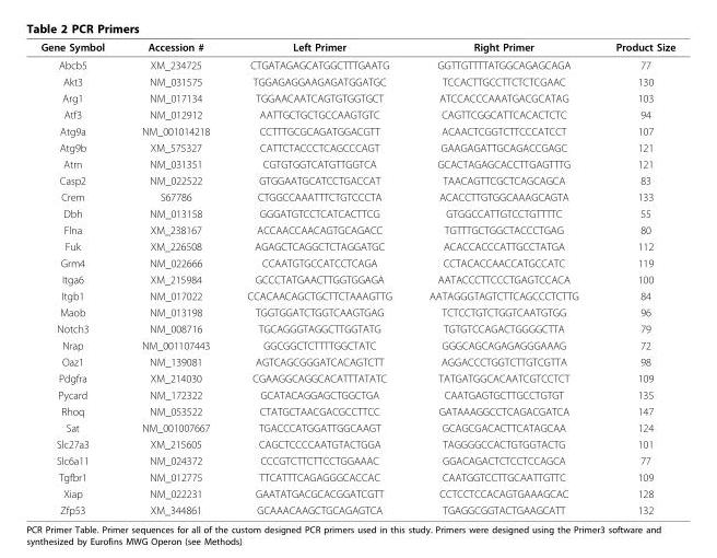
<table><thead><tr><td>Gene Symbol</td><td>Accession #</td><td>Left Primer</td><td>Right Primer</td><td>Product Size</td></tr></thead><tbody><tr><td>Abcb5</td><td>XM_234725</td><td>CTGATAGAGCATGGCTTTGAATG</td><td>GGTTGTTTTATGGCAGAGCAGA</td><td>77</td></tr><tr><td>Akt3</td><td>NM_031575</td><td>TGGAGAGGAAGAGATGGATGC</td><td>TCCACTTGCCTTCTCTCGAAC</td><td>130</td></tr><tr><td>Arg1</td><td>NM_017134</td><td>TGGAACAATCAGTGTGGTGCT</td><td>ATCCACCCAAATGACGCATAG</td><td>103</td></tr><tr><td>Atf3</td><td>NM_012912</td><td>AATTGCTGCTGCCAAGTGTC</td><td>CAGTTCGGCATTCACACTCTC</td><td>94</td></tr><tr><td>Atg9a</td><td>NM_001014218</td><td>CCTTTGCGCAGATGGACGTT</td><td>ACAACTCGGTCTTCCCATCCT</td><td>107</td></tr><tr><td>Atg9b</td><td>XM_575327</td><td>CATTCTACCCTCAGCCCAGT</td><td>GAAGAGATTGCAGACCGAGC</td><td>121</td></tr><tr><td>Atrn</td><td>NM_031351</td><td>CGTGTGGTCATGTTGGTCA</td><td>GCACTAGAGCACCTTGAGTTTG</td><td>121</td></tr><tr><td>Casp2</td><td>NM_022522</td><td>GTGGAATGCATCCTGACCAT</td><td>TAACAGTTCGCTCAGCAGCA</td><td>83</td></tr><tr><td>Crem</td><td>S67786</td><td>CTGGCCAAATTTCTGTCCCTA</td><td>ACACCTTGTGGCAAAGCAGTA</td><td>133</td></tr><tr><td>Dbh</td><td>NM_013158</td><td>GGGATGTCCTCATCACTTCG</td><td>GTGGCCATTGTCCTGTTTTC</td><td>55</td></tr><tr><td>Flna</td><td>XM_238167</td><td>ACCAACCAACAGTGCAGACC</td><td>TGTTTGCTGGCTACCCTGAG</td><td>80</td></tr><tr><td>Fuk</td><td>XM_226508</td><td>AGAGCTCAGGCTCTAGGATGC</td><td>ACACCACCCATTGCCTATGA</td><td>112</td></tr><tr><td>Grm4</td><td>NM_022666</td><td>CCAATGTGCCATCCTCAGA</td><td>CCTACACCAACCATGCCATC</td><td>119</td></tr><tr><td>Itga6</td><td>XM_215984</td><td>GCCCTATGAACTTGGTGGAGA</td><td>AATACCCTTCCCTGAGTCCACA</td><td>100</td></tr><tr><td>Itgb1</td><td>NM_017022</td><td>CCACAACAGCTGCTTCTAAAGTTG</td><td>AATAGGGTAGTCTTCAGCCCTCTTG</td><td>84</td></tr><tr><td>Maob</td><td>NM_013198</td><td>TGGTGGATCTGGTCAAGTGAG</td><td>TCTCCTGTCTGGTCAATGTGG</td><td>96</td></tr><tr><td>Notch3</td><td>NM_008716</td><td>TGCAGGGTAGGCTTGGTATG</td><td>TGTGTCCAGACTGGGGCTTA</td><td>79</td></tr><tr><td>Nrap</td><td>NM_001107443</td><td>GGCGGCTCTTTTGGCTATC</td><td>GGGCAGCAGAGAGGGAAAG</td><td>72</td></tr><tr><td>Oaz1</td><td>NM_139081</td><td>AGTCAGCGGGATCACAGTCTT</td><td>AGGACCCTGGTCTTGTCGTTA</td><td>98</td></tr><tr><td>Pdgfra</td><td>XM_214030</td><td>CGAAGGCAGGCACATTTATATC</td><td>TATGATGGCACAATCGTCCTCT</td><td>109</td></tr><tr><td>Pycard</td><td>NM_172322</td><td>GCATACAGGAGCTGGCTGA</td><td>CAATGAGTGCTTGCCTGTGT</td><td>135</td></tr><tr><td>Rhoq</td><td>NM_053522</td><td>CTATGCTAACGACGCCTTCC</td><td>GATAAAGGCCTCAGACGATCA</td><td>147</td></tr><tr><td>Sat</td><td>NM_001007667</td><td>TGACCCATGGATTGGCAAGT</td><td>GCAGCGACACTTCATAGCAA</td><td>124</td></tr><tr><td>Slc27a3</td><td>XM_215605</td><td>CAGCTCCCCAATGTACTGGA</td><td>TAGGGGCCACTGTGGTACTG</td><td>101</td></tr><tr><td>Slc6a11</td><td>NM_024372</td><td>CCCGTCTTCTTCCTGGAAAC</td><td>GGACAGACTCTCCTCCAGCA</td><td>77</td></tr><tr><td>Tgfbr1</td><td>NM_012775</td><td>TTCATTTCAGAGGGCACCAC</td><td>CAATGGTCCTTGCAATTGTTC</td><td>109</td></tr><tr><td>Xiap</td><td>NM_022231</td><td>GAATATGACGCACGGATCGTT</td><td>CCTCCTCCACAGTGAAAGCAC</td><td>128</td></tr><tr><td>Zfp53</td><td>XM_344861</td><td>GCAAACAAGCTGCAGAGTCA</td><td>TGAGGCGGTACTGAAGCATT</td><td>132</td></tr></tbody></table>